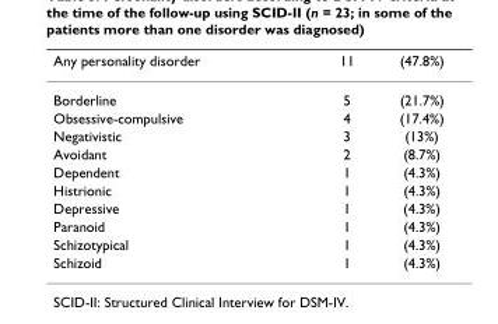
<table><thead><tr><td>Any personality disorder</td><td>11</td><td>(47.8%)</td></tr></thead><tbody><tr><td>Borderline</td><td>5</td><td>(21.7%)</td></tr><tr><td>Obsessive-compulsive</td><td>4</td><td>(17.4%)</td></tr><tr><td>Negativistic</td><td>3</td><td>(13%)</td></tr><tr><td>Avoidant</td><td>2</td><td>(8.7%)</td></tr><tr><td>Dependent</td><td>1</td><td>(4.3%)</td></tr><tr><td>Histrionic</td><td>1</td><td>(4.3%)</td></tr><tr><td>Depressive</td><td>1</td><td>(4.3%)</td></tr><tr><td>Paranoid</td><td>1</td><td>(4.3%)</td></tr><tr><td>Schizotypical</td><td>1</td><td>(4.3%)</td></tr><tr><td>Schizoid</td><td>1</td><td>(4.3%)</td></tr></tbody></table>